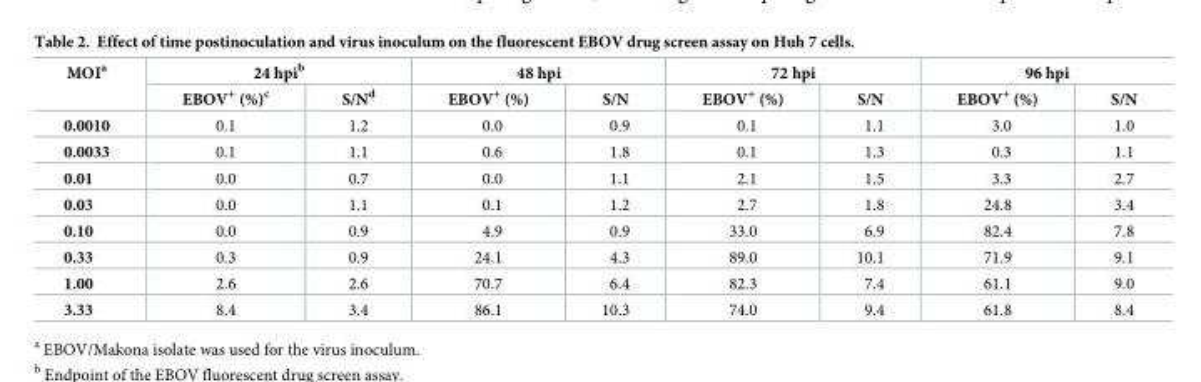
<table><thead><tr><td rowspan="2">MOI<sup>a</sup></td><td colspan="2">24 hpi<sup>b</sup></td><td colspan="2">48 hpi</td><td colspan="2">72 hpi</td><td colspan="2">96 hpi</td></tr><tr><td>EBOV<sup>+</sup> (%)<sup>c</sup></td><td>S/N<sup>d</sup></td><td>EBOV<sup>+</sup> (%)</td><td>S/N</td><td>EBOV<sup>+</sup> (%)</td><td>S/N</td><td>EBOV<sup>+</sup> (%)</td><td>S/N</td></tr></thead><tbody><tr><td>0.0010</td><td>0.1</td><td>1.2</td><td>0.0</td><td>0.9</td><td>0.1</td><td>1.1</td><td>3.0</td><td>1.0</td></tr><tr><td>0.0033</td><td>0.1</td><td>1.1</td><td>0.6</td><td>1.8</td><td>0.1</td><td>1.3</td><td>0.3</td><td>1.1</td></tr><tr><td>0.01</td><td>0.0</td><td>0.7</td><td>0.0</td><td>1.1</td><td>2.1</td><td>1.5</td><td>3.3</td><td>2.7</td></tr><tr><td>0.03</td><td>0.0</td><td>1.1</td><td>0.1</td><td>1.2</td><td>2.7</td><td>1.8</td><td>24.8</td><td>3.4</td></tr><tr><td>0.10</td><td>0.0</td><td>0.9</td><td>4.9</td><td>0.9</td><td>33.0</td><td>6.9</td><td>82.4</td><td>7.8</td></tr><tr><td>0.33</td><td>0.3</td><td>0.9</td><td>24.1</td><td>4.3</td><td>89.0</td><td>10.1</td><td>71.9</td><td>9.1</td></tr><tr><td>1.00</td><td>2.6</td><td>2.6</td><td>70.7</td><td>6.4</td><td>82.3</td><td>7.4</td><td>61.1</td><td>9.0</td></tr><tr><td>3.33</td><td>8.4</td><td>3.4</td><td>86.1</td><td>10.3</td><td>74.0</td><td>9.4</td><td>61.8</td><td>8.4</td></tr></tbody></table>